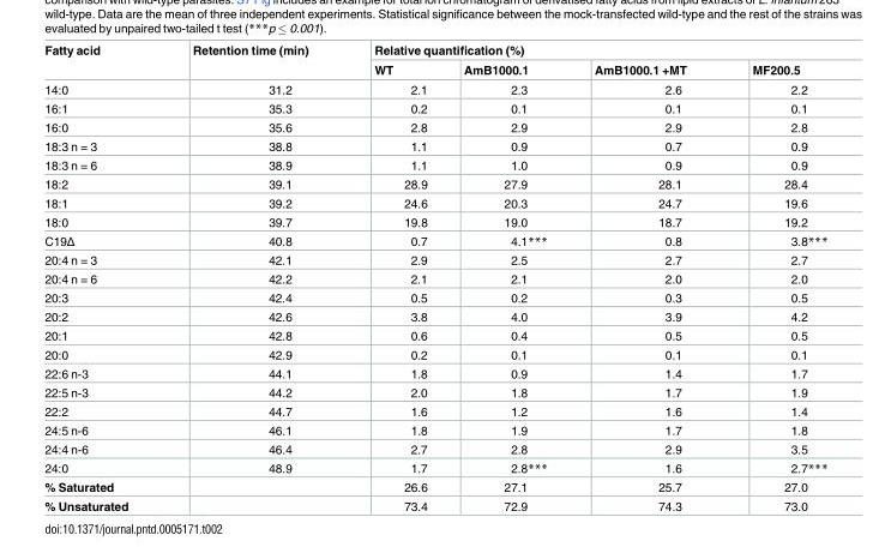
<table><thead><tr><td rowspan="2">Fatty acid</td><td rowspan="2">Retention time (min)</td><td colspan="4">Relative quantification (%)</td></tr><tr><td>WT</td><td>AmB1000.1</td><td>AmB1000.1 +MT</td><td>MF200.5</td></tr></thead><tbody><tr><td>14:0</td><td>31.2</td><td>2.1</td><td>2.3</td><td>2.6</td><td>2.2</td></tr><tr><td>16:1</td><td>35.3</td><td>0.2</td><td>0.1</td><td>0.1</td><td>0.1</td></tr><tr><td>16:0</td><td>35.6</td><td>2.8</td><td>2.9</td><td>2.9</td><td>2.8</td></tr><tr><td>18:3 n = 3</td><td>38.8</td><td>1.1</td><td>0.9</td><td>0.7</td><td>0.9</td></tr><tr><td>18:3 n = 6</td><td>38.9</td><td>1.1</td><td>1.0</td><td>0.9</td><td>0.9</td></tr><tr><td>18:2</td><td>39.1</td><td>28.9</td><td>27.9</td><td>28.1</td><td>28.4</td></tr><tr><td>18:1</td><td>39.2</td><td>24.6</td><td>20.3</td><td>24.7</td><td>19.6</td></tr><tr><td>18:0</td><td>39.7</td><td>19.8</td><td>19.0</td><td>18.7</td><td>19.2</td></tr><tr><td>C19Δ</td><td>40.8</td><td>0.7</td><td>4.1***</td><td>0.8</td><td>3.8***</td></tr><tr><td>20:4 n = 3</td><td>42.1</td><td>2.9</td><td>2.5</td><td>2.7</td><td>2.7</td></tr><tr><td>20:4 n = 6</td><td>42.2</td><td>2.1</td><td>2.1</td><td>2.0</td><td>2.0</td></tr><tr><td>20:3</td><td>42.4</td><td>0.5</td><td>0.2</td><td>0.3</td><td>0.5</td></tr><tr><td>20:2</td><td>42.6</td><td>3.8</td><td>4.0</td><td>3.9</td><td>4.2</td></tr><tr><td>20:1</td><td>42.8</td><td>0.6</td><td>0.4</td><td>0.5</td><td>0.5</td></tr><tr><td>20:0</td><td>42.9</td><td>0.2</td><td>0.1</td><td>0.1</td><td>0.1</td></tr><tr><td>22:6 n-3</td><td>44.1</td><td>1.8</td><td>0.9</td><td>1.4</td><td>1.7</td></tr><tr><td>22:5 n-3</td><td>44.2</td><td>2.0</td><td>1.8</td><td>1.7</td><td>1.9</td></tr><tr><td>22:2</td><td>44.7</td><td>1.6</td><td>1.2</td><td>1.6</td><td>1.4</td></tr><tr><td>24:5 n-6</td><td>46.1</td><td>1.8</td><td>1.9</td><td>1.7</td><td>1.8</td></tr><tr><td>24:4 n-6</td><td>46.4</td><td>2.7</td><td>2.8</td><td>2.9</td><td>3.5</td></tr><tr><td>24:0</td><td>48.9</td><td>1.7</td><td>2.8***</td><td>1.6</td><td>2.7***</td></tr><tr><td>% Saturated</td><td></td><td>26.6</td><td>27.1</td><td>25.7</td><td>27.0</td></tr><tr><td>% Unsaturated</td><td></td><td>73.4</td><td>72.9</td><td>74.3</td><td>73.0</td></tr></tbody></table>